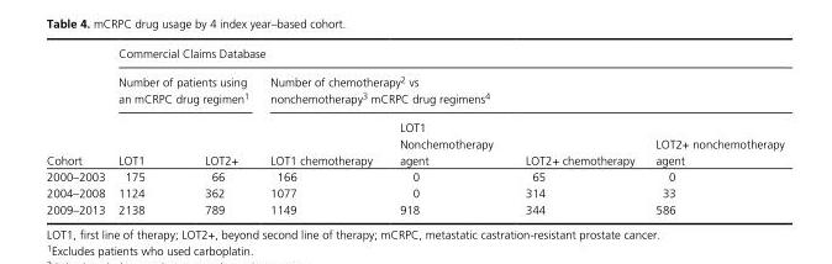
<table><thead><tr><td rowspan="3">Cohort</td><td colspan="6">Commercial Claims Database</td></tr><tr><td colspan="2">Number of patients using an mCRPC drug regimen1</td><td colspan="4">Number of chemotherapy2 vs nonchemotherapy3 mCRPC drug regimens4</td></tr><tr><td>LOT1</td><td>LOT2+</td><td>LOT1 chemotherapy</td><td>LOT1 Nonchemotherapy agent</td><td>LOT2+ chemotherapy</td><td>LOT2+ nonchemotherapy agent</td></tr></thead><tbody><tr><td>2000–2003</td><td>175</td><td>66</td><td>166</td><td>0</td><td>65</td><td>0</td></tr><tr><td>2004–2008</td><td>1124</td><td>362</td><td>1077</td><td>0</td><td>314</td><td>33</td></tr><tr><td>2009–2013</td><td>2138</td><td>789</td><td>1149</td><td>918</td><td>344</td><td>586</td></tr></tbody></table>